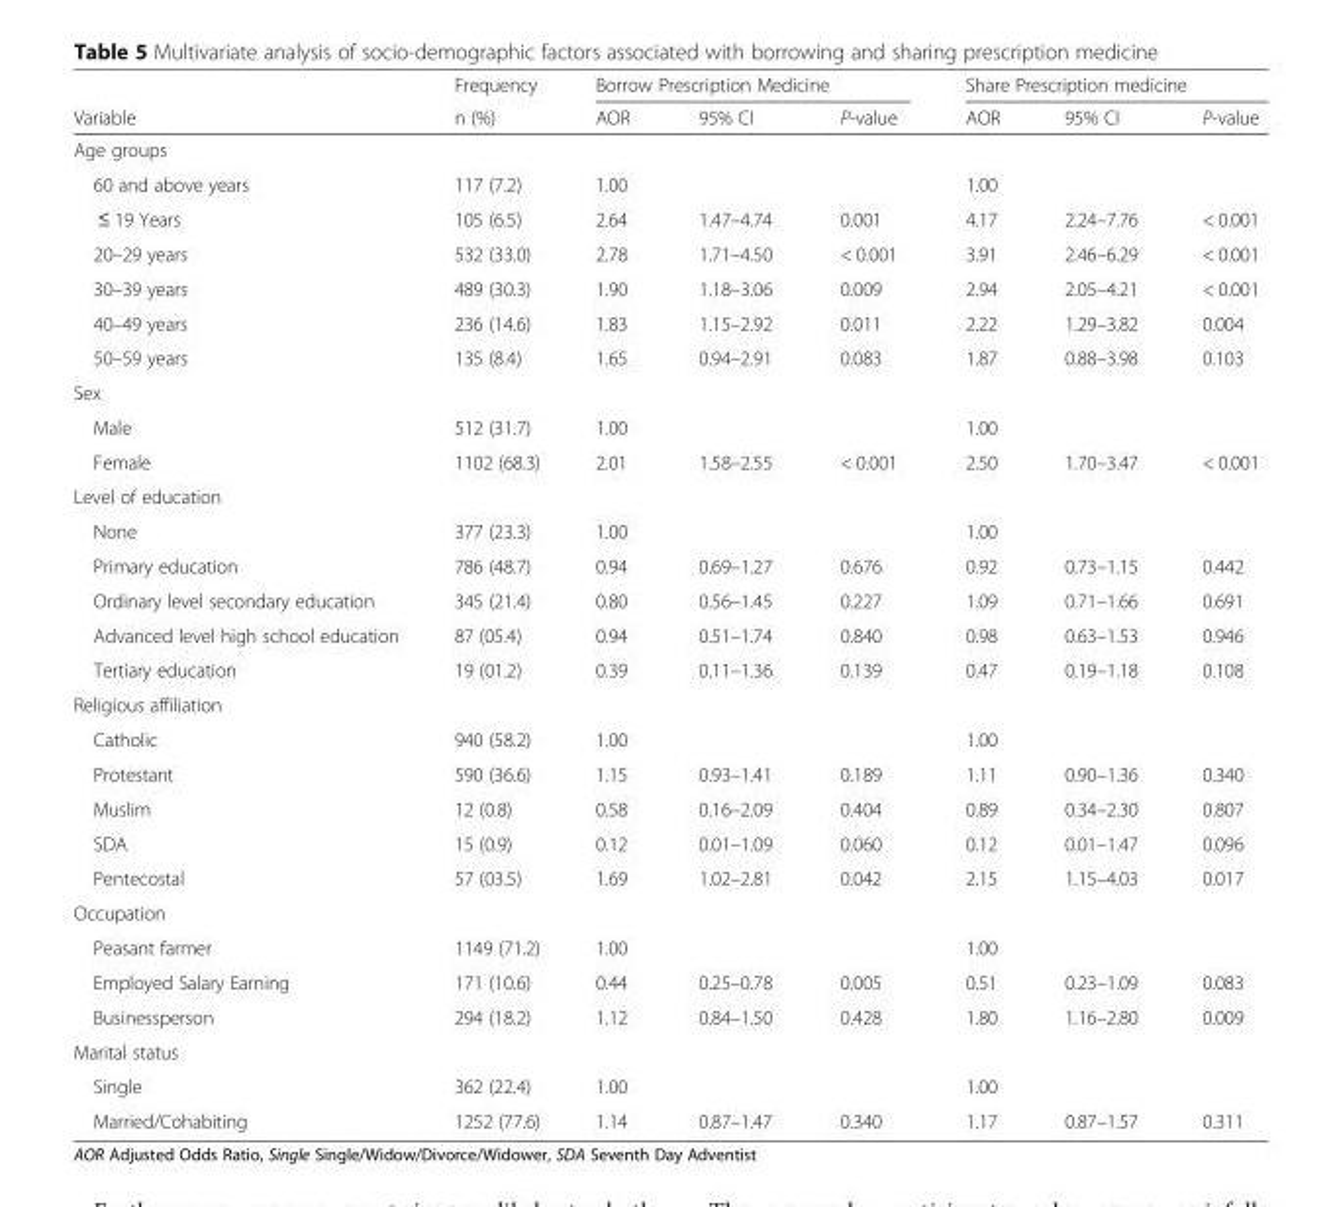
<table><thead><tr><td rowspan="2">Variable</td><td rowspan="2">Frequency n (%)</td><td colspan="3">Borrow Prescription Medicine</td><td colspan="3">Share Prescription medicine</td></tr><tr><td>AOR</td><td>95% CI</td><td>P-value</td><td>AOR</td><td>95% CI</td><td>P-value</td></tr></thead><tbody><tr><td colspan="8">Age groups</td></tr><tr><td>60 and above years</td><td>117 (7.2)</td><td>1.00</td><td></td><td></td><td>1.00</td><td></td><td></td></tr><tr><td>≤ 19 Years</td><td>105 (6.5)</td><td>2.64</td><td>1.47–4.74</td><td>0.001</td><td>4.17</td><td>2.24–7.76</td><td>&lt; 0.001</td></tr><tr><td>20–29 years</td><td>532 (33.0)</td><td>2.78</td><td>1.71–4.50</td><td>&lt; 0.001</td><td>3.91</td><td>2.46–6.29</td><td>&lt; 0.001</td></tr><tr><td>30–39 years</td><td>489 (30.3)</td><td>1.90</td><td>1.18–3.06</td><td>0.009</td><td>2.94</td><td>2.05–4.21</td><td>&lt; 0.001</td></tr><tr><td>40–49 years</td><td>236 (14.6)</td><td>1.83</td><td>1.15–2.92</td><td>0.011</td><td>2.22</td><td>1.29–3.82</td><td>0.004</td></tr><tr><td>50–59 years</td><td>135 (8.4)</td><td>1.65</td><td>0.94–2.91</td><td>0.083</td><td>1.87</td><td>0.88–3.98</td><td>0.103</td></tr><tr><td colspan="8">Sex</td></tr><tr><td>Male</td><td>512 (31.7)</td><td>1.00</td><td></td><td></td><td>1.00</td><td></td><td></td></tr><tr><td>Female</td><td>1102 (68.3)</td><td>2.01</td><td>1.58–2.55</td><td>&lt; 0.001</td><td>2.50</td><td>1.70–3.47</td><td>&lt; 0.001</td></tr><tr><td colspan="8">Level of education</td></tr><tr><td>None</td><td>377 (23.3)</td><td>1.00</td><td></td><td></td><td>1.00</td><td></td><td></td></tr><tr><td>Primary education</td><td>786 (48.7)</td><td>0.94</td><td>0.69–1.27</td><td>0.676</td><td>0.92</td><td>0.73–1.15</td><td>0.442</td></tr><tr><td>Ordinary level secondary education</td><td>345 (21.4)</td><td>0.80</td><td>0.56–1.45</td><td>0.227</td><td>1.09</td><td>0.71–1.66</td><td>0.691</td></tr><tr><td>Advanced level high school education</td><td>87 (05.4)</td><td>0.94</td><td>0.51–1.74</td><td>0.840</td><td>0.98</td><td>0.63–1.53</td><td>0.946</td></tr><tr><td>Tertiary education</td><td>19 (01.2)</td><td>0.39</td><td>0.11–1.36</td><td>0.139</td><td>0.47</td><td>0.19–1.18</td><td>0.108</td></tr><tr><td colspan="8">Religious affiliation</td></tr><tr><td>Catholic</td><td>940 (58.2)</td><td>1.00</td><td></td><td></td><td>1.00</td><td></td><td></td></tr><tr><td>Protestant</td><td>590 (36.6)</td><td>1.15</td><td>0.93–1.41</td><td>0.189</td><td>1.11</td><td>0.90–1.36</td><td>0.340</td></tr><tr><td>Muslim</td><td>12 (0.8)</td><td>0.58</td><td>0.16–2.09</td><td>0.404</td><td>0.89</td><td>0.34–2.30</td><td>0.807</td></tr><tr><td>SDA</td><td>15 (0.9)</td><td>0.12</td><td>0.01–1.09</td><td>0.060</td><td>0.12</td><td>0.01–1.47</td><td>0.096</td></tr><tr><td>Pentecostal</td><td>57 (03.5)</td><td>1.69</td><td>1.02–2.81</td><td>0.042</td><td>2.15</td><td>1.15–4.03</td><td>0.017</td></tr><tr><td colspan="8">Occupation</td></tr><tr><td>Peasant farmer</td><td>1149 (71.2)</td><td>1.00</td><td></td><td></td><td>1.00</td><td></td><td></td></tr><tr><td>Employed Salary Earning</td><td>171 (10.6)</td><td>0.44</td><td>0.25–0.78</td><td>0.005</td><td>0.51</td><td>0.23–1.09</td><td>0.083</td></tr><tr><td>Businessperson</td><td>294 (18.2)</td><td>1.12</td><td>0.84–1.50</td><td>0.428</td><td>1.80</td><td>1.16–2.80</td><td>0.009</td></tr><tr><td colspan="8">Marital status</td></tr><tr><td>Single</td><td>362 (22.4)</td><td>1.00</td><td></td><td></td><td>1.00</td><td></td><td></td></tr><tr><td>Married/Cohabiting</td><td>1252 (77.6)</td><td>1.14</td><td>0.87–1.47</td><td>0.340</td><td>1.17</td><td>0.87–1.57</td><td>0.311</td></tr></tbody></table>